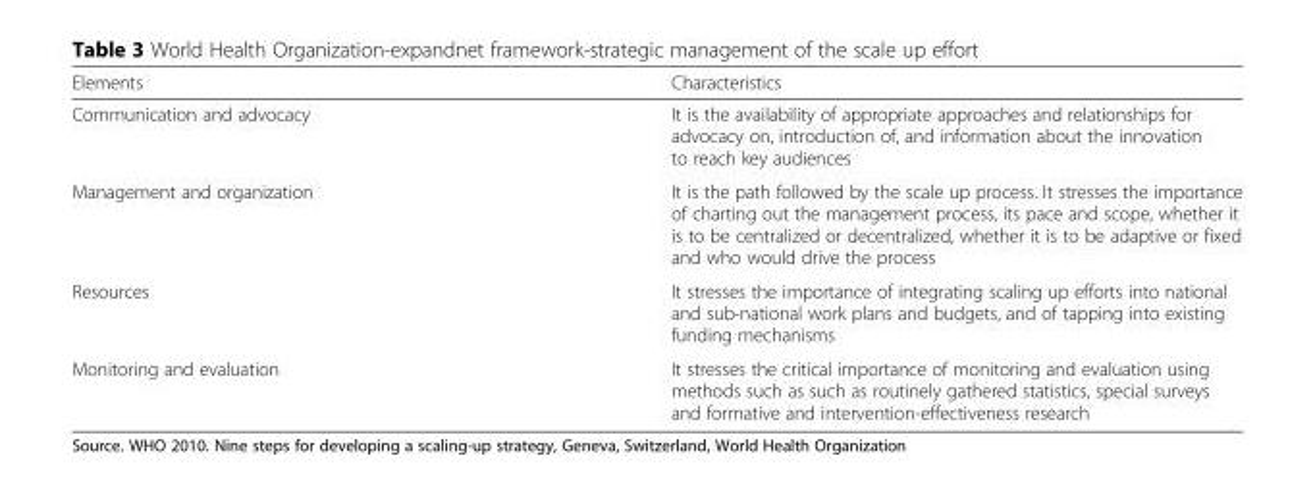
<table><thead><tr><td>Elements</td><td>Characteristics</td></tr></thead><tbody><tr><td>Communication and advocacy</td><td>It is the availability of appropriate approaches and relationships for advocacy on, introduction of, and information about the innovation to reach key audiences</td></tr><tr><td>Management and organization</td><td>It is the path followed by the scale up process. It stresses the importance of charting out the management process, its pace and scope, whether it is to be centralized or decentralized, whether it is to be adaptive or fixed and who would drive the process</td></tr><tr><td>Resources</td><td>It stresses the importance of integrating scaling up efforts into national and sub-national work plans and budgets, and of tapping into existing funding mechanisms</td></tr><tr><td>Monitoring and evaluation</td><td>It stresses the critical importance of monitoring and evaluation using methods such as such as routinely gathered statistics, special surveys and formative and intervention-effectiveness research</td></tr></tbody></table>